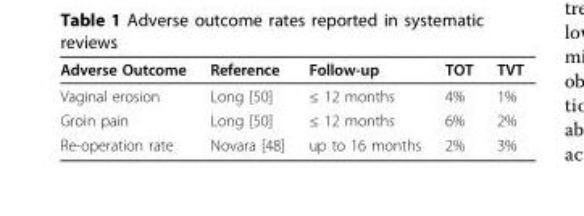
<table><thead><tr><td>Adverse Outcome</td><td>Reference</td><td>Follow-up</td><td>TOT</td><td>TVT</td></tr></thead><tbody><tr><td>Vaginal erosion</td><td>Long [50]</td><td>≤ 12 months</td><td>4%</td><td>1%</td></tr><tr><td>Groin pain</td><td>Long [50]</td><td>≤ 12 months</td><td>6%</td><td>2%</td></tr><tr><td>Re-operation rate</td><td>Novara [48]</td><td>up to 16 months</td><td>2%</td><td>3%</td></tr></tbody></table>